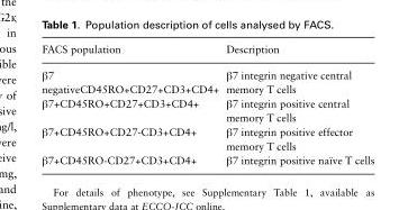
<table><thead><tr><td>FACS population</td><td>Description</td></tr></thead><tbody><tr><td>β7 negativeCD45RO+CD27+CD3+CD4+</td><td>β7 integrin negative central memory T cells</td></tr><tr><td>β7+CD45RO+CD27+CD3+CD4+</td><td>β7 integrin positive central memory T cells</td></tr><tr><td>β7+CD45RO+CD27-CD3+CD4+</td><td>β7 integrin positive effector memory T cells</td></tr><tr><td>β7+CD45RO-CD27+CD3+CD4+</td><td>β7 integrin positive naïve T cells</td></tr></tbody></table>